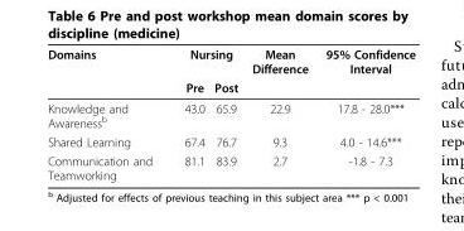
<table><thead><tr><td rowspan="2">Domains</td><td colspan="2">Nursing</td><td rowspan="2">Mean Difference</td><td rowspan="2">95% Confidence Interval</td></tr><tr><td>Pre</td><td>Post</td></tr></thead><tbody><tr><td>Knowledge and Awareness<sup>b</sup></td><td>43.0</td><td>65.9</td><td>22.9</td><td>17.8 - 28.0***</td></tr><tr><td>Shared Learning</td><td>67.4</td><td>76.7</td><td>9.3</td><td>4.0 - 14.6***</td></tr><tr><td>Communication and Teamworking</td><td>81.1</td><td>83.9</td><td>2.7</td><td>-1.8 - 7.3</td></tr></tbody></table>